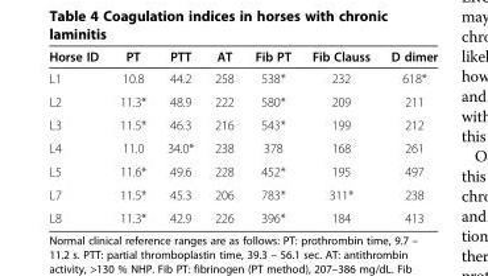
<table><thead><tr><td>Horse ID</td><td>PT</td><td>PTT</td><td>AT</td><td>Fib PT</td><td>Fib Clauss</td><td>D dimer</td></tr></thead><tbody><tr><td>L1</td><td>10.8</td><td>44.2</td><td>258</td><td>538*</td><td>232</td><td>618*</td></tr><tr><td>L2</td><td>11.3*</td><td>48.9</td><td>222</td><td>580*</td><td>209</td><td>211</td></tr><tr><td>L3</td><td>11.5*</td><td>46.3</td><td>216</td><td>543*</td><td>199</td><td>212</td></tr><tr><td>L4</td><td>11.0</td><td>34.0*</td><td>238</td><td>378</td><td>168</td><td>261</td></tr><tr><td>L5</td><td>11.6*</td><td>49.6</td><td>228</td><td>452*</td><td>195</td><td>497</td></tr><tr><td>L7</td><td>11.5*</td><td>45.3</td><td>206</td><td>783*</td><td>311*</td><td>238</td></tr><tr><td>L8</td><td>11.3*</td><td>42.9</td><td>226</td><td>396*</td><td>184</td><td>413</td></tr></tbody></table>